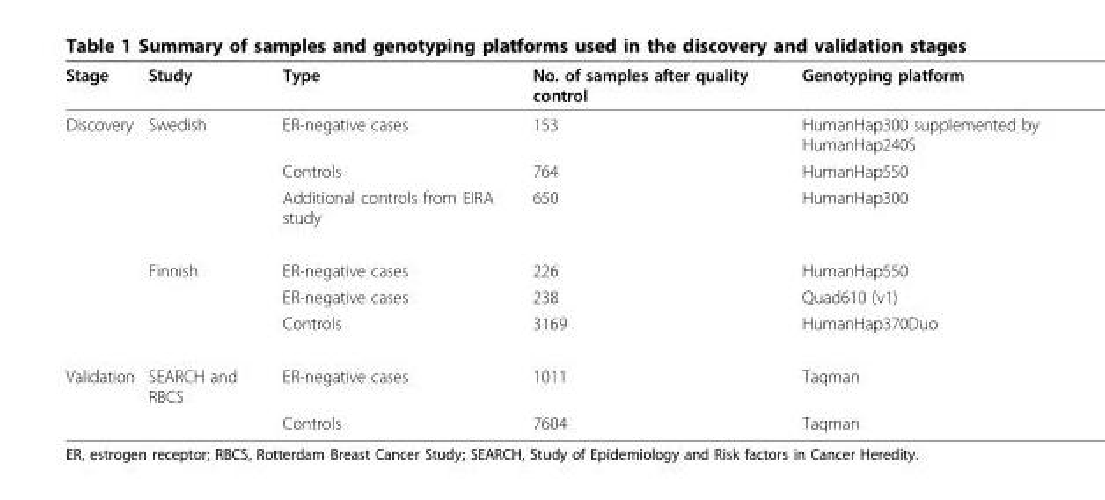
<table><thead><tr><td>Stage</td><td>Study</td><td>Type</td><td>No. of samples after quality control</td><td>Genotyping platform</td></tr></thead><tbody><tr><td rowspan="6">Discovery</td><td>Swedish</td><td>ER-negative cases</td><td>153</td><td>HumanHap300 supplemented by HumanHap240S</td></tr><tr><td></td><td>Controls</td><td>764</td><td>HumanHap550</td></tr><tr><td></td><td>Additional controls from EIRA study</td><td>650</td><td>HumanHap300</td></tr><tr><td>Finnish</td><td>ER-negative cases</td><td>226</td><td>HumanHap550</td></tr><tr><td></td><td>ER-negative cases</td><td>238</td><td>Quad610 (v1)</td></tr><tr><td></td><td>Controls</td><td>3169</td><td>HumanHap370Duo</td></tr><tr><td rowspan="2">Validation</td><td>SEARCH and RBCS</td><td>ER-negative cases</td><td>1011</td><td>Taqman</td></tr><tr><td></td><td>Controls</td><td>7604</td><td>Taqman</td></tr></tbody></table>